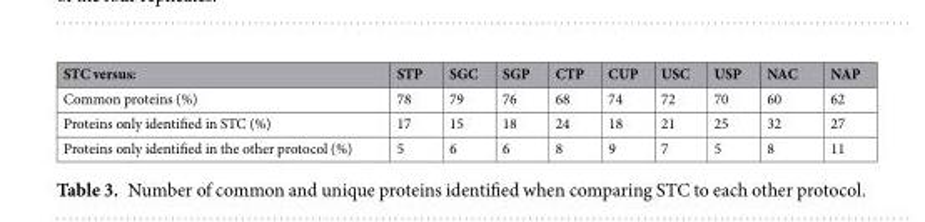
<table><thead><tr><td>STC versus:</td><td>STP</td><td>SGC</td><td>SGP</td><td>CTP</td><td>CUP</td><td>USC</td><td>USP</td><td>NAC</td><td>NAP</td></tr></thead><tbody><tr><td>Common proteins (%)</td><td>78</td><td>79</td><td>76</td><td>68</td><td>74</td><td>72</td><td>70</td><td>60</td><td>62</td></tr><tr><td>Proteins only identified in STC (%)</td><td>17</td><td>15</td><td>18</td><td>24</td><td>18</td><td>21</td><td>25</td><td>32</td><td>27</td></tr><tr><td>Proteins only identified in the other protocol (%)</td><td>5</td><td>6</td><td>6</td><td>8</td><td>9</td><td>7</td><td>5</td><td>8</td><td>11</td></tr></tbody></table>